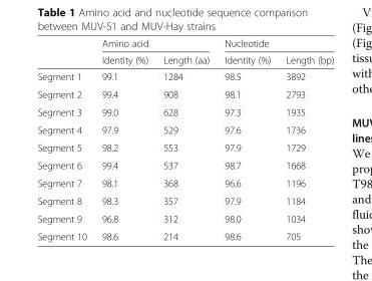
<table><thead><tr><td rowspan="2"></td><td colspan="2">Amino acid</td><td colspan="2">Nucleotide</td></tr><tr><td>Identity (%)</td><td>Length (aa)</td><td>Identity (%)</td><td>Length (bp)</td></tr></thead><tbody><tr><td>Segment 1</td><td>99.1</td><td>1284</td><td>98.5</td><td>3892</td></tr><tr><td>Segment 2</td><td>99.4</td><td>908</td><td>98.1</td><td>2793</td></tr><tr><td>Segment 3</td><td>99.0</td><td>628</td><td>97.3</td><td>1935</td></tr><tr><td>Segment 4</td><td>97.9</td><td>529</td><td>97.6</td><td>1736</td></tr><tr><td>Segment 5</td><td>98.2</td><td>553</td><td>97.9</td><td>1729</td></tr><tr><td>Segment 6</td><td>99.4</td><td>537</td><td>98.7</td><td>1668</td></tr><tr><td>Segment 7</td><td>98.1</td><td>368</td><td>96.6</td><td>1196</td></tr><tr><td>Segment 8</td><td>98.3</td><td>357</td><td>97.9</td><td>1184</td></tr><tr><td>Segment 9</td><td>96.8</td><td>312</td><td>98.0</td><td>1034</td></tr><tr><td>Segment 10</td><td>98.6</td><td>214</td><td>98.6</td><td>705</td></tr></tbody></table>